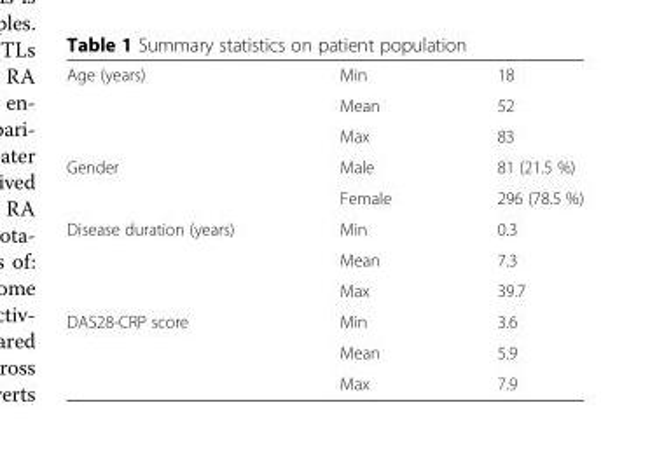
<table><tbody><tr><td rowspan="3">Age (years)</td><td>Min</td><td>18</td></tr><tr><td>Mean</td><td>52</td></tr><tr><td>Max</td><td>83</td></tr><tr><td rowspan="2">Gender</td><td>Male</td><td>81 (21.5 %)</td></tr><tr><td>Female</td><td>296 (78.5 %)</td></tr><tr><td rowspan="3">Disease duration (years)</td><td>Min</td><td>0.3</td></tr><tr><td>Mean</td><td>7.3</td></tr><tr><td>Max</td><td>39.7</td></tr><tr><td rowspan="3">DAS28-CRP score</td><td>Min</td><td>3.6</td></tr><tr><td>Mean</td><td>5.9</td></tr><tr><td>Max</td><td>7.9</td></tr></tbody></table>